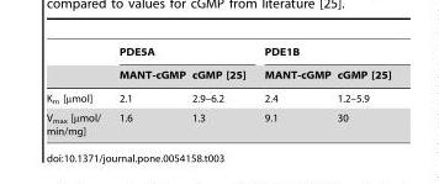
<table><thead><tr><td rowspan="2"></td><td colspan="2">PDE5A</td><td colspan="2">PDE1B</td></tr><tr><td>MANT-cGMP</td><td>cGMP [25]</td><td>MANT-cGMP</td><td>cGMP [25]</td></tr></thead><tbody><tr><td>K<sub>m</sub> [µmol]</td><td>2.1</td><td>2.9–6.2</td><td>2.4</td><td>1.2–5.9</td></tr><tr><td>V<sub>max</sub> [µmol/ min/mg]</td><td>1.6</td><td>1.3</td><td>9.1</td><td>30</td></tr></tbody></table>